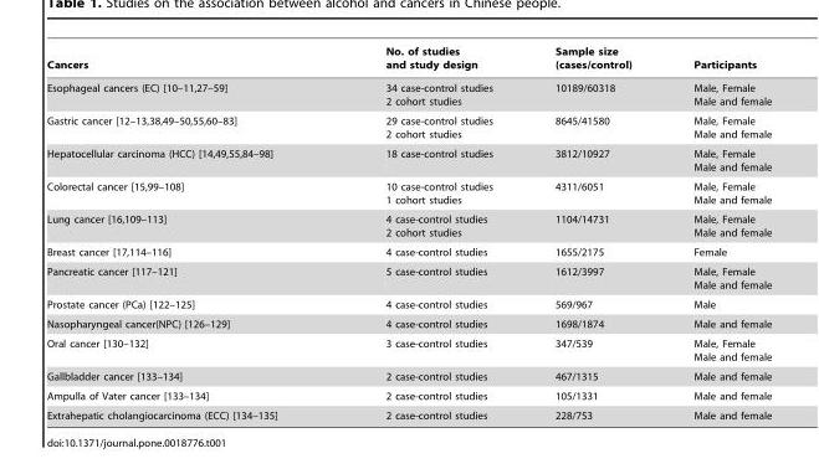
<table><thead><tr><td>Cancers</td><td>No. of studies and study design</td><td>Sample size (cases/control)</td><td>Participants</td></tr></thead><tbody><tr><td>Esophageal cancers (EC) [10–11,27–59]</td><td>34 case-control studies 2 cohort studies</td><td>10189/60318</td><td>Male, Female Male and female</td></tr><tr><td>Gastric cancer [12–13,38,49–50,55,60–83]</td><td>29 case-control studies 2 cohort studies</td><td>8645/41580</td><td>Male, Female Male and female</td></tr><tr><td>Hepatocellular carcinoma (HCC) [14,49,55,84–98]</td><td>18 case-control studies</td><td>3812/10927</td><td>Male, Female Male and female</td></tr><tr><td>Colorectal cancer [15,99–108]</td><td>10 case-control studies 1 cohort studies</td><td>4311/6051</td><td>Male, Female Male and female</td></tr><tr><td>Lung cancer [16,109–113]</td><td>4 case-control studies 2 cohort studies</td><td>1104/14731</td><td>Male, Female Male and female</td></tr><tr><td>Breast cancer [17,114–116]</td><td>4 case-control studies</td><td>1655/2175</td><td>Female</td></tr><tr><td>Pancreatic cancer [117–121]</td><td>5 case-control studies</td><td>1612/3997</td><td>Male, Female Male and female</td></tr><tr><td>Prostate cancer (PCa) [122–125]</td><td>4 case-control studies</td><td>569/967</td><td>Male</td></tr><tr><td>Nasopharyngeal cancer(NPC) [126–129]</td><td>4 case-control studies</td><td>1698/1874</td><td>Male and female</td></tr><tr><td>Oral cancer [130–132]</td><td>3 case-control studies</td><td>347/539</td><td>Male, Female Male and female</td></tr><tr><td>Gallbladder cancer [133–134]</td><td>2 case-control studies</td><td>467/1315</td><td>Male and female</td></tr><tr><td>Ampulla of Vater cancer [133–134]</td><td>2 case-control studies</td><td>105/1331</td><td>Male and female</td></tr><tr><td>Extrahepatic cholangiocarcinoma (ECC) [134–135]</td><td>2 case-control studies</td><td>228/753</td><td>Male and female</td></tr></tbody></table>